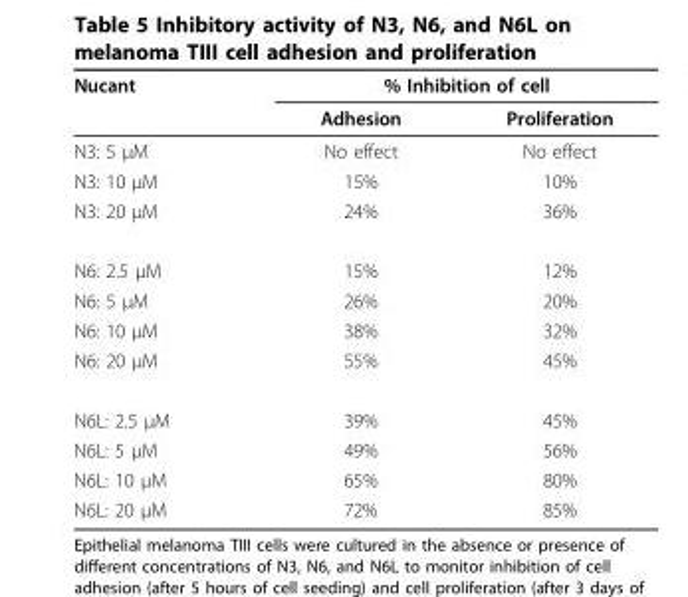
<table><thead><tr><td rowspan="2">Nucant</td><td colspan="2">% Inhibition of cell</td></tr><tr><td>Adhesion</td><td>Proliferation</td></tr></thead><tbody><tr><td>N3: 5 μM</td><td>No effect</td><td>No effect</td></tr><tr><td>N3: 10 μM</td><td>15%</td><td>10%</td></tr><tr><td>N3: 20 μM</td><td>24%</td><td>36%</td></tr><tr><td>N6: 2.5 μM</td><td>15%</td><td>12%</td></tr><tr><td>N6: 5 μM</td><td>26%</td><td>20%</td></tr><tr><td>N6: 10 μM</td><td>38%</td><td>32%</td></tr><tr><td>N6: 20 μM</td><td>55%</td><td>45%</td></tr><tr><td>N6L: 2.5 μM</td><td>39%</td><td>45%</td></tr><tr><td>N6L: 5 μM</td><td>49%</td><td>56%</td></tr><tr><td>N6L: 10 μM</td><td>65%</td><td>80%</td></tr><tr><td>N6L: 20 μM</td><td>72%</td><td>85%</td></tr></tbody></table>